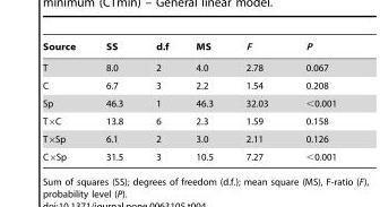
<table><thead><tr><td>Source</td><td>SS</td><td>d.f</td><td>MS</td><td>F</td><td>P</td></tr></thead><tbody><tr><td>T</td><td>8.0</td><td>2</td><td>4.0</td><td>2.78</td><td>0.067</td></tr><tr><td>C</td><td>6.7</td><td>3</td><td>2.2</td><td>1.54</td><td>0.208</td></tr><tr><td>Sp</td><td>46.3</td><td>1</td><td>46.3</td><td>32.03</td><td>&lt;0.001</td></tr><tr><td>T×C</td><td>13.8</td><td>6</td><td>2.3</td><td>1.59</td><td>0.158</td></tr><tr><td>T×Sp</td><td>6.1</td><td>2</td><td>3.0</td><td>2.11</td><td>0.126</td></tr><tr><td>C×Sp</td><td>31.5</td><td>3</td><td>10.5</td><td>7.27</td><td>&lt;0.001</td></tr></tbody></table>